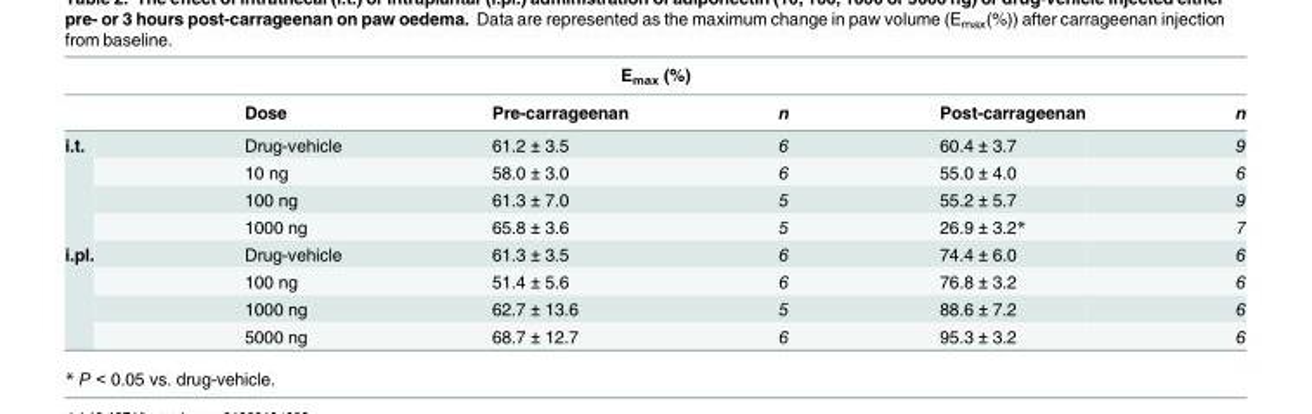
<table><thead><tr><td colspan="6">E<sub>max</sub> (%)</td></tr><tr><td></td><td>Dose</td><td>Pre-carrageenan</td><td>n</td><td>Post-carrageenan</td><td>n</td></tr></thead><tbody><tr><td rowspan="4">i.t.</td><td>Drug-vehicle</td><td>61.2 ± 3.5</td><td>6</td><td>60.4 ± 3.7</td><td>9</td></tr><tr><td>10 ng</td><td>58.0 ± 3.0</td><td>6</td><td>55.0 ± 4.0</td><td>6</td></tr><tr><td>100 ng</td><td>61.3 ± 7.0</td><td>5</td><td>55.2 ± 5.7</td><td>9</td></tr><tr><td>1000 ng</td><td>65.8 ± 3.6</td><td>5</td><td>26.9 ± 3.2*</td><td>7</td></tr><tr><td rowspan="4">i.pl.</td><td>Drug-vehicle</td><td>61.3 ± 3.5</td><td>6</td><td>74.4 ± 6.0</td><td>6</td></tr><tr><td>100 ng</td><td>51.4 ± 5.6</td><td>6</td><td>76.8 ± 3.2</td><td>6</td></tr><tr><td>1000 ng</td><td>62.7 ± 13.6</td><td>5</td><td>88.6 ± 7.2</td><td>6</td></tr><tr><td>5000 ng</td><td>68.7 ± 12.7</td><td>6</td><td>95.3 ± 3.2</td><td>6</td></tr></tbody></table>